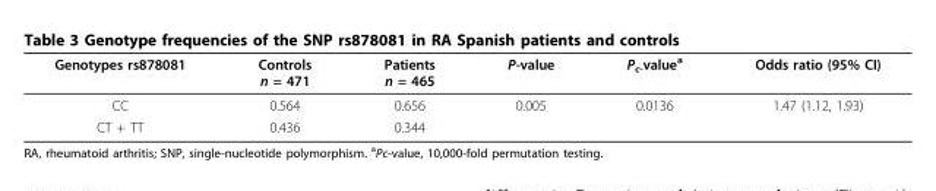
<table><thead><tr><td>Genotypes rs878081</td><td>Controls n = 471</td><td>Patients n = 465</td><td>P-value</td><td>P<sub>c-</sub>value<sup>a</sup></td><td>Odds ratio (95% CI)</td></tr></thead><tbody><tr><td>CC</td><td>0.564</td><td>0.656</td><td>0.005</td><td>0.0136</td><td>1.47 (1.12, 1.93)</td></tr><tr><td>CT + TT</td><td>0.436</td><td>0.344</td><td></td><td></td><td></td></tr></tbody></table>